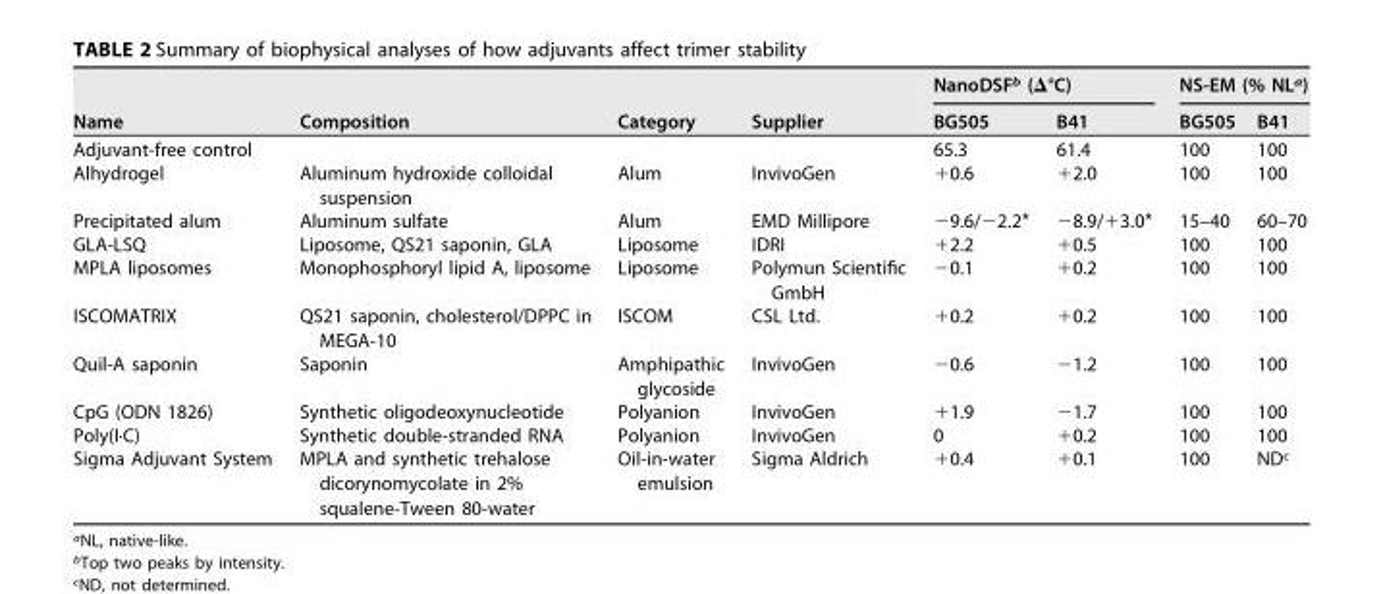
<table><thead><tr><td rowspan="2">Name</td><td rowspan="2">Composition</td><td rowspan="2">Category</td><td rowspan="2">Supplier</td><td colspan="2">NanoDSF<sup>b</sup> (Δ°C)</td><td colspan="2">NS-EM (% NL<sup>a</sup>)</td></tr><tr><td>BG505</td><td>B41</td><td>BG505</td><td>B41</td></tr></thead><tbody><tr><td>Adjuvant-free control</td><td></td><td></td><td></td><td>65.3</td><td>61.4</td><td>100</td><td>100</td></tr><tr><td>Alhydrogel</td><td>Aluminum hydroxide colloidal suspension</td><td>Alum</td><td>InvivoGen</td><td>+0.6</td><td>+2.0</td><td>100</td><td>100</td></tr><tr><td>Precipitated alum</td><td>Aluminum sulfate</td><td>Alum</td><td>EMD Millipore</td><td>−9.6/−2.2*</td><td>−8.9/+3.0*</td><td>15–40</td><td>60–70</td></tr><tr><td>GLA-LSQ</td><td>Liposome, QS21 saponin, GLA</td><td>Liposome</td><td>IDRI</td><td>+2.2</td><td>+0.5</td><td>100</td><td>100</td></tr><tr><td>MPLA liposomes</td><td>Monophosphoryl lipid A, liposome</td><td>Liposome</td><td>Polymun Scientific GmbH</td><td>−0.1</td><td>+0.2</td><td>100</td><td>100</td></tr><tr><td>ISCOMATRIX</td><td>QS21 saponin, cholesterol/DPPC in MEGA-10</td><td>ISCOM</td><td>CSL Ltd.</td><td>+0.2</td><td>+0.2</td><td>100</td><td>100</td></tr><tr><td>Quil-A saponin</td><td>Saponin</td><td>Amphipathic glycoside</td><td>InvivoGen</td><td>−0.6</td><td>−1.2</td><td>100</td><td>100</td></tr><tr><td>CpG (ODN 1826)</td><td>Synthetic oligodeoxynucleotide</td><td>Polyanion</td><td>InvivoGen</td><td>+1.9</td><td>−1.7</td><td>100</td><td>100</td></tr><tr><td>Poly(I·C)</td><td>Synthetic double-stranded RNA</td><td>Polyanion</td><td>InvivoGen</td><td>0</td><td>+0.2</td><td>100</td><td>100</td></tr><tr><td>Sigma Adjuvant System</td><td>MPLA and synthetic trehalose dicorynomycolate in 2% squalene-Tween 80-water</td><td>Oil-in-water emulsion</td><td>Sigma Aldrich</td><td>+0.4</td><td>+0.1</td><td>100</td><td>ND<sup>c</sup></td></tr></tbody></table>